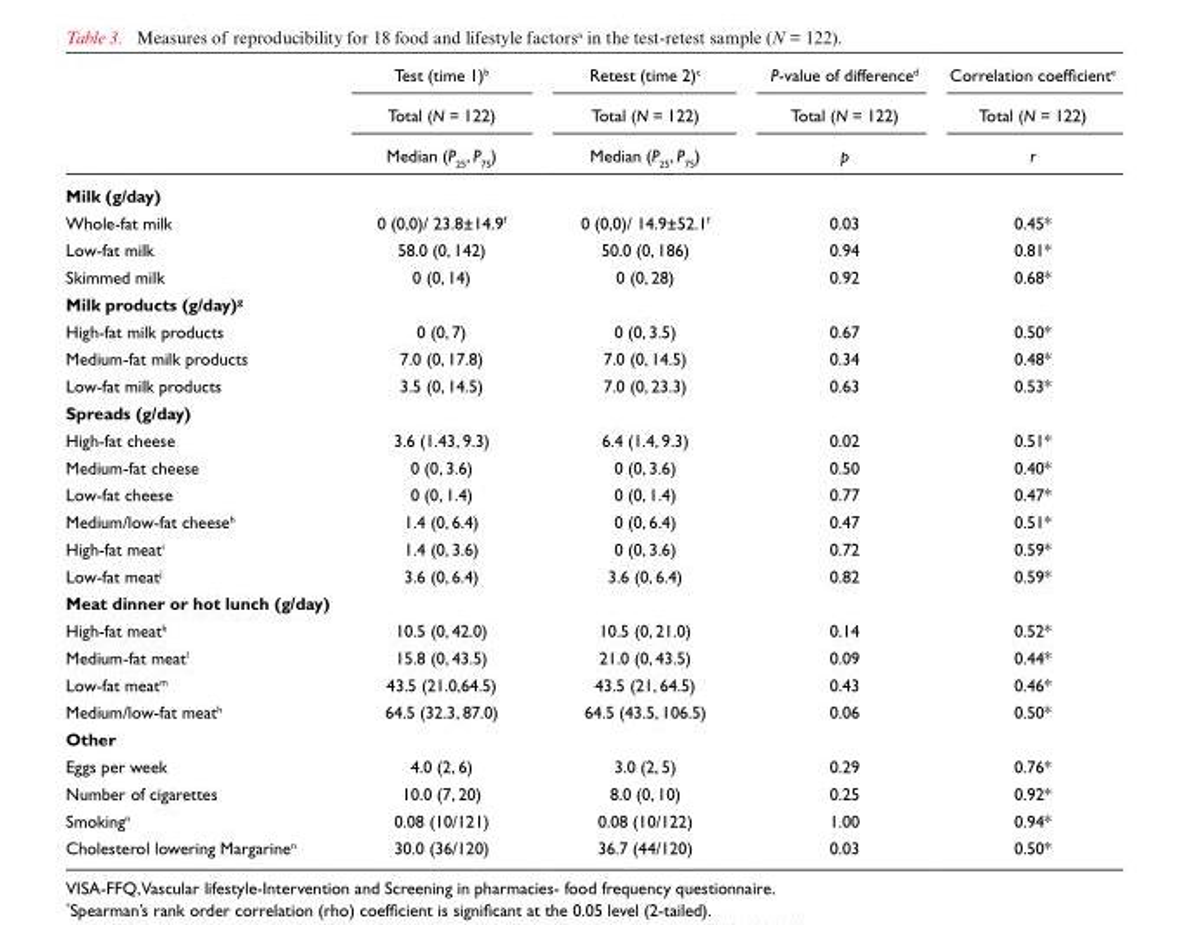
<table><thead><tr><td rowspan="3"></td><td rowspan="3">Test (time 1)<sup>b</sup> Total (N = 122) Median (P<sub>25</sub>, P<sub>75</sub>)</td><td rowspan="3">Retest (time 2)<sup>c</sup> Total (N = 122) Median (P<sub>25</sub>, P<sub>75</sub>)</td><td rowspan="3">P-value of difference<sup>d</sup> Total (N = 122) p</td><td rowspan="3">Correlation coefficient<sup>e</sup> Total (N = 122) r</td></tr><tr></tr><tr></tr></thead><tbody><tr><td colspan="5">Milk (g/day)</td></tr><tr><td>Whole-fat milk</td><td>0 (0,0)/ 23.8±14.9<sup>f</sup></td><td>0 (0,0)/ 14.9±52.1<sup>f</sup></td><td>0.03</td><td>0.45*</td></tr><tr><td>Low-fat milk</td><td>58.0 (0, 142)</td><td>50.0 (0, 186)</td><td>0.94</td><td>0.81*</td></tr><tr><td>Skimmed milk</td><td>0 (0, 14)</td><td>0 (0, 28)</td><td>0.92</td><td>0.68*</td></tr><tr><td colspan="5">Milk products (g/day)<sup>g</sup></td></tr><tr><td>High-fat milk products</td><td>0 (0, 7)</td><td>0 (0, 3.5)</td><td>0.67</td><td>0.50*</td></tr><tr><td>Medium-fat milk products</td><td>7.0 (0, 17.8)</td><td>7.0 (0, 14.5)</td><td>0.34</td><td>0.48*</td></tr><tr><td>Low-fat milk products</td><td>3.5 (0, 14.5)</td><td>7.0 (0, 23.3)</td><td>0.63</td><td>0.53*</td></tr><tr><td colspan="5">Spreads (g/day)</td></tr><tr><td>High-fat cheese</td><td>3.6 (1.43, 9.3)</td><td>6.4 (1.4, 9.3)</td><td>0.02</td><td>0.51*</td></tr><tr><td>Medium-fat cheese</td><td>0 (0, 3.6)</td><td>0 (0, 3.6)</td><td>0.50</td><td>0.40*</td></tr><tr><td>Low-fat cheese</td><td>0 (0, 1.4)</td><td>0 (0, 1.4)</td><td>0.77</td><td>0.47*</td></tr><tr><td>Medium/low-fat cheese<sup>h</sup></td><td>1.4 (0, 6.4)</td><td>0 (0, 6.4)</td><td>0.47</td><td>0.51*</td></tr><tr><td>High-fat meat<sup>i</sup></td><td>1.4 (0, 3.6)</td><td>0 (0, 3.6)</td><td>0.72</td><td>0.59*</td></tr><tr><td>Low-fat meat<sup>j</sup></td><td>3.6 (0, 6.4)</td><td>3.6 (0, 6.4)</td><td>0.82</td><td>0.59*</td></tr><tr><td colspan="5">Meat dinner or hot lunch (g/day)</td></tr><tr><td>High-fat meat<sup>k</sup></td><td>10.5 (0, 42.0)</td><td>10.5 (0, 21.0)</td><td>0.14</td><td>0.52*</td></tr><tr><td>Medium-fat meat<sup>l</sup></td><td>15.8 (0, 43.5)</td><td>21.0 (0, 43.5)</td><td>0.09</td><td>0.44*</td></tr><tr><td>Low-fat meat<sup>m</sup></td><td>43.5 (21.0,64.5)</td><td>43.5 (21, 64.5)</td><td>0.43</td><td>0.46*</td></tr><tr><td>Medium/low-fat meat<sup>h</sup></td><td>64.5 (32.3, 87.0)</td><td>64.5 (43.5, 106.5)</td><td>0.06</td><td>0.50*</td></tr><tr><td colspan="5">Other</td></tr><tr><td>Eggs per week</td><td>4.0 (2, 6)</td><td>3.0 (2, 5)</td><td>0.29</td><td>0.76*</td></tr><tr><td>Number of cigarettes</td><td>10.0 (7, 20)</td><td>8.0 (0, 10)</td><td>0.25</td><td>0.92*</td></tr><tr><td>Smoking<sup>n</sup></td><td>0.08 (10/121)</td><td>0.08 (10/122)</td><td>1.00</td><td>0.94*</td></tr><tr><td>Cholesterol lowering Margarine<sup>n</sup></td><td>30.0 (36/120)</td><td>36.7 (44/120)</td><td>0.03</td><td>0.50*</td></tr></tbody></table>